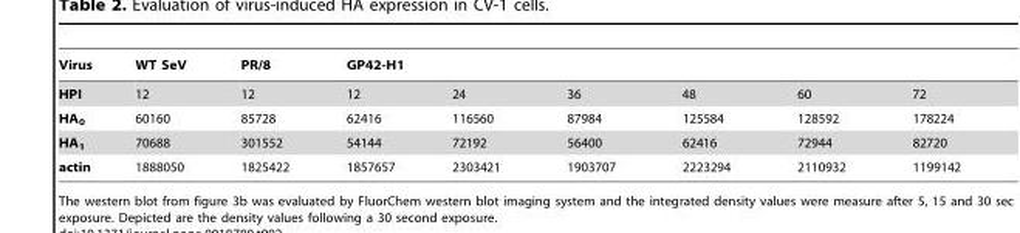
<table><thead><tr><td rowspan="2">Virus HPI</td><td rowspan="2">WT SeV 12</td><td rowspan="2">PR/8 12</td><td colspan="6">GP42-H1</td></tr><tr><td>12</td><td>24</td><td>36</td><td>48</td><td>60</td><td>72</td></tr></thead><tbody><tr><td>HA<sub>0</sub></td><td>60160</td><td>85728</td><td>62416</td><td>116560</td><td>87984</td><td>125584</td><td>128592</td><td>178224</td></tr><tr><td>HA<sub>1</sub></td><td>70688</td><td>301552</td><td>54144</td><td>72192</td><td>56400</td><td>62416</td><td>72944</td><td>82720</td></tr><tr><td>actin</td><td>1888050</td><td>1825422</td><td>1857657</td><td>2303421</td><td>1903707</td><td>2223294</td><td>2110932</td><td>1199142</td></tr></tbody></table>